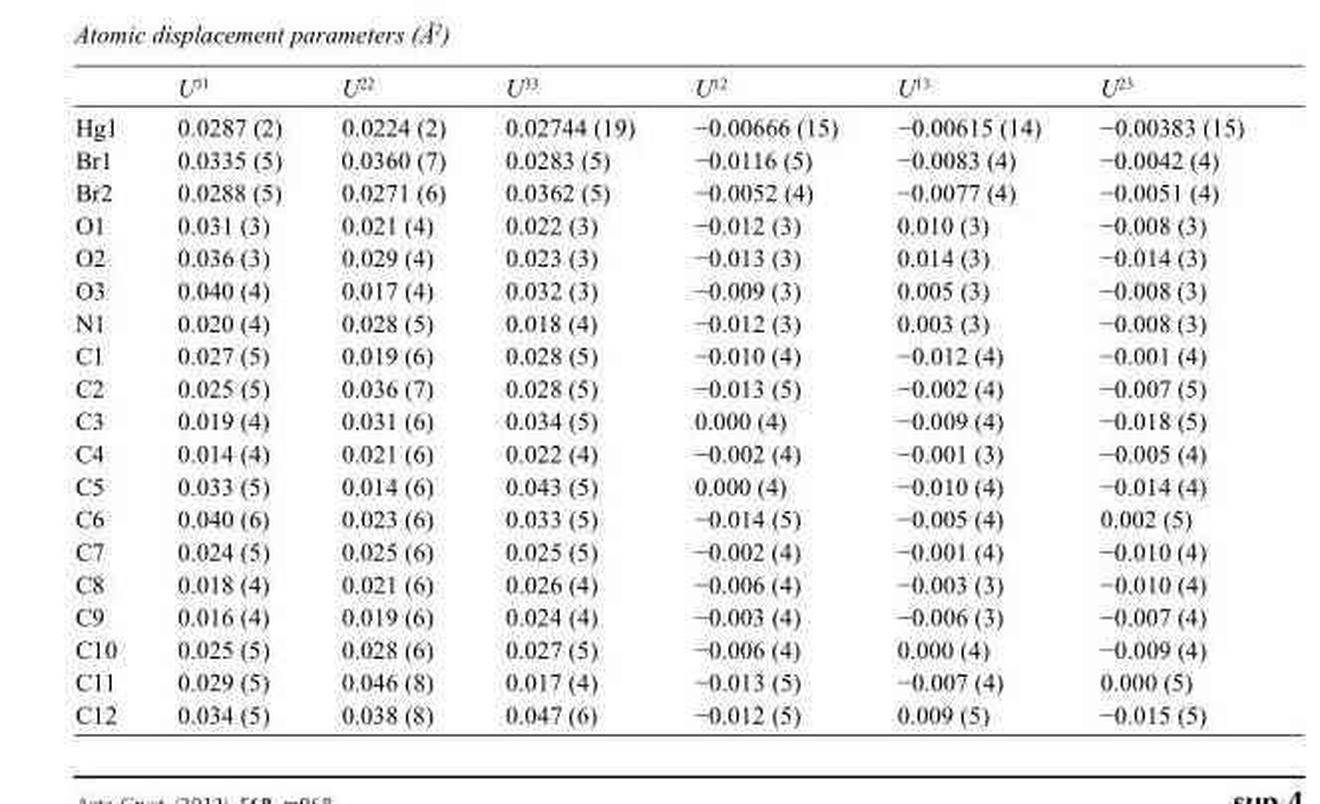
<table><thead><tr><td></td><td>U<sup>11</sup></td><td>U<sup>22</sup></td><td>U<sup>33</sup></td><td>U<sup>12</sup></td><td>U<sup>13</sup></td><td>U<sup>23</sup></td></tr></thead><tbody><tr><td>Hg1</td><td>0.0287 (2)</td><td>0.0224 (2)</td><td>0.02744 (19)</td><td>−0.00666 (15)</td><td>−0.00615 (14)</td><td>−0.00383 (15)</td></tr><tr><td>Br1</td><td>0.0335 (5)</td><td>0.0360 (7)</td><td>0.0283 (5)</td><td>−0.0116 (5)</td><td>−0.0083 (4)</td><td>−0.0042 (4)</td></tr><tr><td>Br2</td><td>0.0288 (5)</td><td>0.0271 (6)</td><td>0.0362 (5)</td><td>−0.0052 (4)</td><td>−0.0077 (4)</td><td>−0.0051 (4)</td></tr><tr><td>O1</td><td>0.031 (3)</td><td>0.021 (4)</td><td>0.022 (3)</td><td>−0.012 (3)</td><td>0.010 (3)</td><td>−0.008 (3)</td></tr><tr><td>O2</td><td>0.036 (3)</td><td>0.029 (4)</td><td>0.023 (3)</td><td>−0.013 (3)</td><td>0.014 (3)</td><td>−0.014 (3)</td></tr><tr><td>O3</td><td>0.040 (4)</td><td>0.017 (4)</td><td>0.032 (3)</td><td>−0.009 (3)</td><td>0.005 (3)</td><td>−0.008 (3)</td></tr><tr><td>N1</td><td>0.020 (4)</td><td>0.028 (5)</td><td>0.018 (4)</td><td>−0.012 (3)</td><td>0.003 (3)</td><td>−0.008 (3)</td></tr><tr><td>C1</td><td>0.027 (5)</td><td>0.019 (6)</td><td>0.028 (5)</td><td>−0.010 (4)</td><td>−0.012 (4)</td><td>−0.001 (4)</td></tr><tr><td>C2</td><td>0.025 (5)</td><td>0.036 (7)</td><td>0.028 (5)</td><td>−0.013 (5)</td><td>−0.002 (4)</td><td>−0.007 (5)</td></tr><tr><td>C3</td><td>0.019 (4)</td><td>0.031 (6)</td><td>0.034 (5)</td><td>0.000 (4)</td><td>−0.009 (4)</td><td>−0.018 (5)</td></tr><tr><td>C4</td><td>0.014 (4)</td><td>0.021 (6)</td><td>0.022 (4)</td><td>−0.002 (4)</td><td>−0.001 (3)</td><td>−0.005 (4)</td></tr><tr><td>C5</td><td>0.033 (5)</td><td>0.014 (6)</td><td>0.043 (5)</td><td>0.000 (4)</td><td>−0.010 (4)</td><td>−0.014 (4)</td></tr><tr><td>C6</td><td>0.040 (6)</td><td>0.023 (6)</td><td>0.033 (5)</td><td>−0.014 (5)</td><td>−0.005 (4)</td><td>0.002 (5)</td></tr><tr><td>C7</td><td>0.024 (5)</td><td>0.025 (6)</td><td>0.025 (5)</td><td>−0.002 (4)</td><td>−0.001 (4)</td><td>−0.010 (4)</td></tr><tr><td>C8</td><td>0.018 (4)</td><td>0.021 (6)</td><td>0.026 (4)</td><td>−0.006 (4)</td><td>−0.003 (3)</td><td>−0.010 (4)</td></tr><tr><td>C9</td><td>0.016 (4)</td><td>0.019 (6)</td><td>0.024 (4)</td><td>−0.003 (4)</td><td>−0.006 (3)</td><td>−0.007 (4)</td></tr><tr><td>C10</td><td>0.025 (5)</td><td>0.028 (6)</td><td>0.027 (5)</td><td>−0.006 (4)</td><td>0.000 (4)</td><td>−0.009 (4)</td></tr><tr><td>C11</td><td>0.029 (5)</td><td>0.046 (8)</td><td>0.017 (4)</td><td>−0.013 (5)</td><td>−0.007 (4)</td><td>0.000 (5)</td></tr><tr><td>C12</td><td>0.034 (5)</td><td>0.038 (8)</td><td>0.047 (6)</td><td>−0.012 (5)</td><td>0.009 (5)</td><td>−0.015 (5)</td></tr></tbody></table>